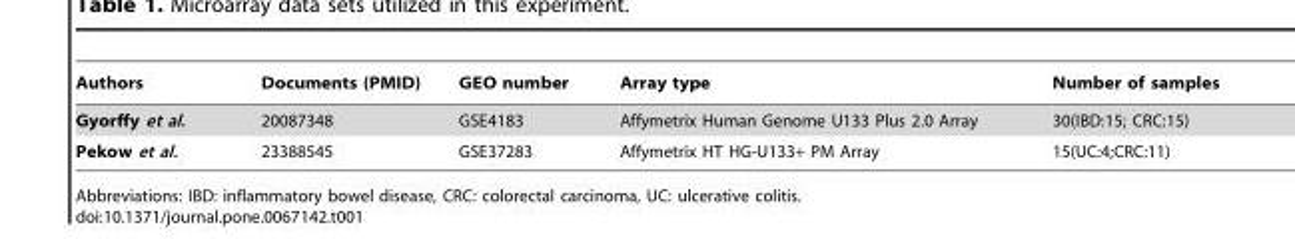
<table><thead><tr><td>Authors</td><td>Documents (PMID)</td><td>GEO number</td><td>Array type</td><td>Number of samples</td></tr></thead><tbody><tr><td>Gyorffy et al.</td><td>20087348</td><td>GSE4183</td><td>Affymetrix Human Genome U133 Plus 2.0 Array</td><td>30(IBD:15; CRC:15)</td></tr><tr><td>Pekow et al.</td><td>23388545</td><td>GSE37283</td><td>Affymetrix HT HG-U133+ PM Array</td><td>15(UC:4;CRC:11)</td></tr></tbody></table>